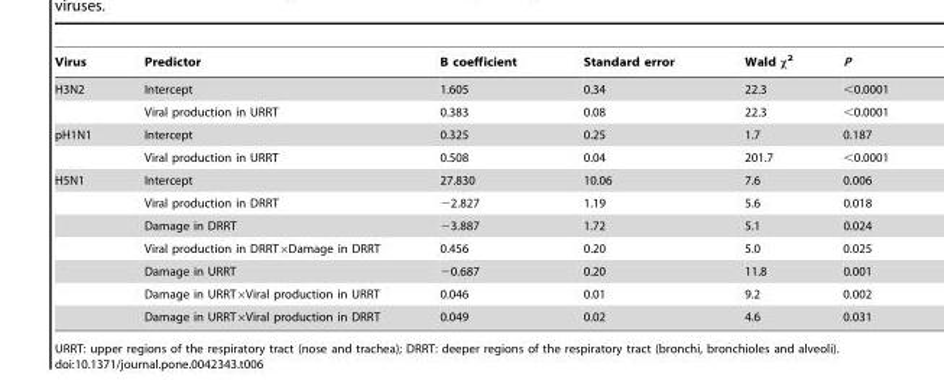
<table><thead><tr><td>Virus</td><td>Predictor</td><td>B coefficient</td><td>Standard error</td><td>Wald χ<sup>2</sup></td><td>P</td></tr></thead><tbody><tr><td rowspan="2">H3N2</td><td>Intercept</td><td>1.605</td><td>0.34</td><td>22.3</td><td>&lt;0.0001</td></tr><tr><td>Viral production in URRT</td><td>0.383</td><td>0.08</td><td>22.3</td><td>&lt;0.0001</td></tr><tr><td rowspan="2">pH1N1</td><td>Intercept</td><td>0.325</td><td>0.25</td><td>1.7</td><td>0.187</td></tr><tr><td>Viral production in URRT</td><td>0.508</td><td>0.04</td><td>201.7</td><td>&lt;0.0001</td></tr><tr><td rowspan="7">H5N1</td><td>Intercept</td><td>27.830</td><td>10.06</td><td>7.6</td><td>0.006</td></tr><tr><td>Viral production in DRRT</td><td>−2.827</td><td>1.19</td><td>5.6</td><td>0.018</td></tr><tr><td>Damage in DRRT</td><td>−3.887</td><td>1.72</td><td>5.1</td><td>0.024</td></tr><tr><td>Viral production in DRRT×Damage in DRRT</td><td>0.456</td><td>0.20</td><td>5.0</td><td>0.025</td></tr><tr><td>Damage in URRT</td><td>−0.687</td><td>0.20</td><td>11.8</td><td>0.001</td></tr><tr><td>Damage in URRT×Viral production in URRT</td><td>0.046</td><td>0.01</td><td>9.2</td><td>0.002</td></tr><tr><td>Damage in URRT×Viral production in DRRT</td><td>0.049</td><td>0.02</td><td>4.6</td><td>0.031</td></tr></tbody></table>